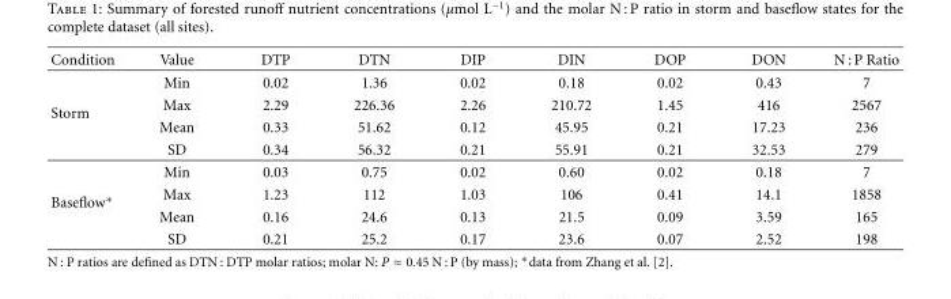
<table><thead><tr><td>Condition</td><td>Value</td><td>DTP</td><td>DTN</td><td>DIP</td><td>DIN</td><td>DOP</td><td>DON</td><td>N : P Ratio</td></tr></thead><tbody><tr><td rowspan="4">Storm</td><td>Min</td><td>0.02</td><td>1.36</td><td>0.02</td><td>0.18</td><td>0.02</td><td>0.43</td><td>7</td></tr><tr><td>Max</td><td>2.29</td><td>226.36</td><td>2.26</td><td>210.72</td><td>1.45</td><td>416</td><td>2567</td></tr><tr><td>Mean</td><td>0.33</td><td>51.62</td><td>0.12</td><td>45.95</td><td>0.21</td><td>17.23</td><td>236</td></tr><tr><td>SD</td><td>0.34</td><td>56.32</td><td>0.21</td><td>55.91</td><td>0.21</td><td>32.53</td><td>279</td></tr><tr><td rowspan="4">Baseflow∗</td><td>Min</td><td>0.03</td><td>0.75</td><td>0.02</td><td>0.60</td><td>0.02</td><td>0.18</td><td>7</td></tr><tr><td>Max</td><td>1.23</td><td>112</td><td>1.03</td><td>106</td><td>0.41</td><td>14.1</td><td>1858</td></tr><tr><td>Mean</td><td>0.16</td><td>24.6</td><td>0.13</td><td>21.5</td><td>0.09</td><td>3.59</td><td>165</td></tr><tr><td>SD</td><td>0.21</td><td>25.2</td><td>0.17</td><td>23.6</td><td>0.07</td><td>2.52</td><td>198</td></tr></tbody></table>